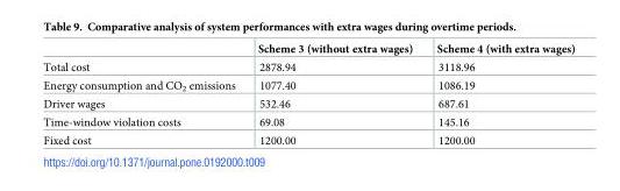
<table><thead><tr><td></td><td>Scheme 3 (without extra wages)</td><td>Scheme 4 (with extra wages)</td></tr></thead><tbody><tr><td>Total cost</td><td>2878.94</td><td>3118.96</td></tr><tr><td>Energy consumption and CO<sub>2</sub> emissions</td><td>1077.40</td><td>1086.19</td></tr><tr><td>Driver wages</td><td>532.46</td><td>687.61</td></tr><tr><td>Time-window violation costs</td><td>69.08</td><td>145.16</td></tr><tr><td>Fixed cost</td><td>1200.00</td><td>1200.00</td></tr></tbody></table>